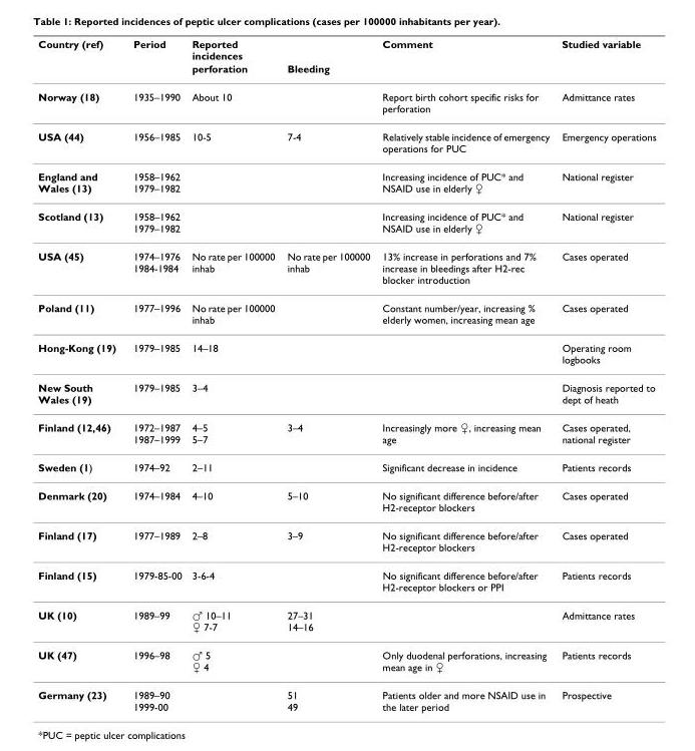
<table><thead><tr><td rowspan="2">Country (ref)</td><td rowspan="2">Period</td><td rowspan="2">Reported incidences perforation</td><td rowspan="2">Bleeding</td><td rowspan="2">Comment</td><td rowspan="2">Studied variable</td></tr><tr></tr></thead><tbody><tr><td>Norway (18)</td><td>1935–1990</td><td>About 10</td><td></td><td>Report birth cohort specific risks for perforation</td><td>Admittance rates</td></tr><tr><td>USA (44)</td><td>1956–1985</td><td>10-5</td><td>7-4</td><td>Relatively stable incidence of emergency operations for PUC</td><td>Emergency operations</td></tr><tr><td>England and Wales (13)</td><td>1958–1962 1979–1982</td><td></td><td></td><td>Increasing incidence of PUC* and NSAID use in elderly ♀</td><td>National register</td></tr><tr><td>Scotland (13)</td><td>1958–1962 1979–1982</td><td></td><td></td><td>Increasing incidence of PUC* and NSAID use in elderly ♀</td><td>National register</td></tr><tr><td>USA (45)</td><td>1974–1976 1984-1984</td><td>No rate per 100000 inhab</td><td>No rate per 100000 inhab</td><td>13% increase in perforations and 7% increase in bleedings after H2-rec blocker introduction</td><td>Cases operated</td></tr><tr><td>Poland (11)</td><td>1977–1996</td><td>No rate per 100000 inhab</td><td></td><td>Constant number/year, increasing % elderly women, increasing mean age</td><td>Cases operated</td></tr><tr><td>Hong-Kong (19)</td><td>1979–1985</td><td>14–18</td><td></td><td></td><td>Operating room logbooks</td></tr><tr><td>New South Wales (19)</td><td>1979–1985</td><td>3–4</td><td></td><td></td><td>Diagnosis reported to dept of heath</td></tr><tr><td>Finland (12,46)</td><td>1972–1987 1987–1999</td><td>4–5 5–7</td><td>3–4</td><td>Increasingly more ♀, increasing mean age</td><td>Cases operated, national register</td></tr><tr><td>Sweden (1)</td><td>1974–92</td><td>2–11</td><td></td><td>Significant decrease in incidence</td><td>Patients records</td></tr><tr><td>Denmark (20)</td><td>1974–1984</td><td>4–10</td><td>5–10</td><td>No significant difference before/after H2-receptor blockers</td><td>Cases operated</td></tr><tr><td>Finland (17)</td><td>1977–1989</td><td>2–8</td><td>3–9</td><td>No significant difference before/after H2-receptor blockers</td><td>Cases operated</td></tr><tr><td>Finland (15)</td><td>1979-85-00</td><td>3-6-4</td><td></td><td>No significant difference before/after H2-receptor blockers or PPI</td><td>Patients records</td></tr><tr><td>UK (10)</td><td>1989–99</td><td>♂ 10–11 ♀ 7-7</td><td>27–31 14–16</td><td></td><td>Admittance rates</td></tr><tr><td>UK (47)</td><td>1996–98</td><td>♂ 5 ♀ 4</td><td></td><td>Only duodenal perforations, increasing mean age in ♀</td><td>Patients records</td></tr><tr><td>Germany (23)</td><td>1989–90 1999-00</td><td></td><td>51 49</td><td>Patients older and more NSAID use in the later period</td><td>Prospective</td></tr></tbody></table>